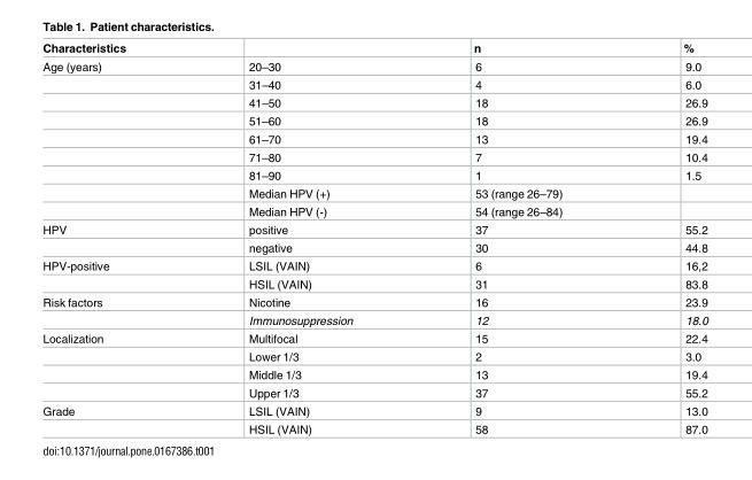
<table><thead><tr><td>Characteristics</td><td></td><td>n</td><td>%</td></tr></thead><tbody><tr><td rowspan="9">Age (years)</td><td>20–30</td><td>6</td><td>9.0</td></tr><tr><td>31–40</td><td>4</td><td>6.0</td></tr><tr><td>41–50</td><td>18</td><td>26.9</td></tr><tr><td>51–60</td><td>18</td><td>26.9</td></tr><tr><td>61–70</td><td>13</td><td>19.4</td></tr><tr><td>71–80</td><td>7</td><td>10.4</td></tr><tr><td>81–90</td><td>1</td><td>1.5</td></tr><tr><td>Median HPV (+)</td><td>53 (range 26–79)</td><td></td></tr><tr><td>Median HPV (-)</td><td>54 (range 26–84)</td><td></td></tr><tr><td rowspan="2">HPV</td><td>positive</td><td>37</td><td>55.2</td></tr><tr><td>negative</td><td>30</td><td>44.8</td></tr><tr><td rowspan="2">HPV-positive</td><td>LSIL (VAIN)</td><td>6</td><td>16,2</td></tr><tr><td>HSIL (VAIN)</td><td>31</td><td>83.8</td></tr><tr><td rowspan="2">Risk factors</td><td>Nicotine</td><td>16</td><td>23.9</td></tr><tr><td>Immunosuppression</td><td>12</td><td>18.0</td></tr><tr><td rowspan="4">Localization</td><td>Multifocal</td><td>15</td><td>22.4</td></tr><tr><td>Lower 1/3</td><td>2</td><td>3.0</td></tr><tr><td>Middle 1/3</td><td>13</td><td>19.4</td></tr><tr><td>Upper 1/3</td><td>37</td><td>55.2</td></tr><tr><td rowspan="2">Grade</td><td>LSIL (VAIN)</td><td>9</td><td>13.0</td></tr><tr><td>HSIL (VAIN)</td><td>58</td><td>87.0</td></tr></tbody></table>